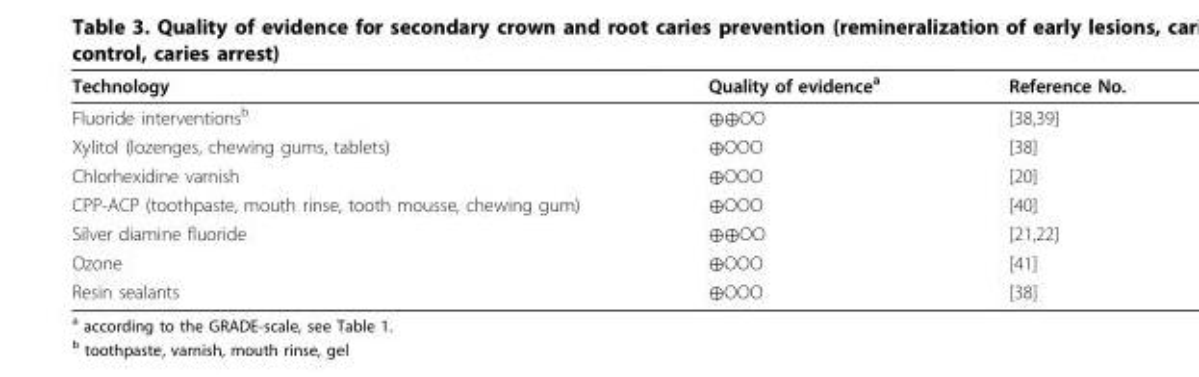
<table><thead><tr><td>Technology</td><td>Quality of evidence<sup>a</sup></td><td>Reference No.</td></tr></thead><tbody><tr><td>Fluoride interventions<sup>b</sup></td><td>⊕⊕OO</td><td>[38,39]</td></tr><tr><td>Xylitol (lozenges, chewing gums, tablets)</td><td>⊕OOO</td><td>[38]</td></tr><tr><td>Chlorhexidine varnish</td><td>⊕OOO</td><td>[20]</td></tr><tr><td>CPP-ACP (toothpaste, mouth rinse, tooth mousse, chewing gum)</td><td>⊕OOO</td><td>[40]</td></tr><tr><td>Silver diamine fluoride</td><td>⊕⊕OO</td><td>[21,22]</td></tr><tr><td>Ozone</td><td>⊕OOO</td><td>[41]</td></tr><tr><td>Resin sealants</td><td>⊕OOO</td><td>[38]</td></tr></tbody></table>